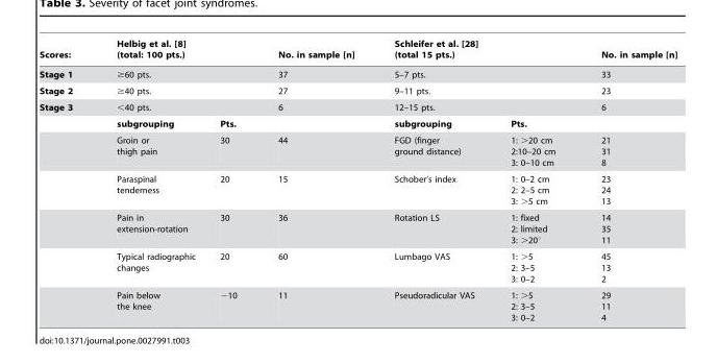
<table><thead><tr><td>Scores:</td><td colspan="2">Helbig et al. [8] (total: 100 pts.)</td><td>No. in sample [n]</td><td colspan="2">Schleifer et al. [28] (total 15 pts.)</td><td>No. in sample [n]</td></tr></thead><tbody><tr><td>Stage 1</td><td colspan="2">≥60 pts.</td><td>37</td><td colspan="2">5–7 pts.</td><td>33</td></tr><tr><td>Stage 2</td><td colspan="2">≥40 pts.</td><td>27</td><td colspan="2">9–11 pts.</td><td>23</td></tr><tr><td rowspan="7">Stage 3</td><td colspan="2">&lt;40 pts.</td><td>6</td><td colspan="2">12–15 pts.</td><td>6</td></tr><tr><td>subgrouping</td><td>Pts.</td><td></td><td>subgrouping</td><td>Pts.</td><td></td></tr><tr><td>Groin or thigh pain</td><td>30</td><td>44</td><td>FGD (finger ground distance)</td><td>1: &gt;20 cm 2:10–20 cm 3: 0–10 cm</td><td>21 31 8</td></tr><tr><td>Paraspinal tenderness</td><td>20</td><td>15</td><td>Schober’s index</td><td>1: 0–2 cm 2: 2–5 cm 3: &gt;5 cm</td><td>23 24 13</td></tr><tr><td>Pain in extension-rotation</td><td>30</td><td>36</td><td>Rotation LS</td><td>1: fixed 2: limited 3: &gt;20°</td><td>14 35 11</td></tr><tr><td>Typical radiographic changes</td><td>20</td><td>60</td><td>Lumbago VAS</td><td>1: &gt;5 2: 3–5 3: 0–2</td><td>45 13 2</td></tr><tr><td>Pain below the knee</td><td>−10</td><td>11</td><td>Pseudoradicular VAS</td><td>1: &gt;5 2: 3–5 3: 0–2</td><td>29 11 4</td></tr></tbody></table>